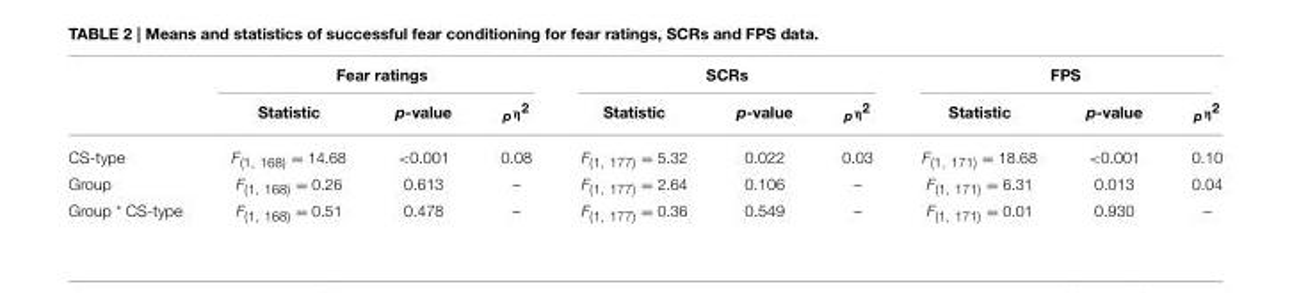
<table><thead><tr><td rowspan="2"></td><td colspan="3">Fear ratings</td><td colspan="3">SCRs</td><td colspan="3">FPS</td></tr><tr><td>Statistic</td><td>p-value</td><td>pη2</td><td>Statistic</td><td>p-value</td><td>pη2</td><td>Statistic</td><td>p-value</td><td>pη2</td></tr></thead><tbody><tr><td>CS-type</td><td>F<sub>(1, 168)</sub> = 14.68</td><td>&lt;0.001</td><td>0.08</td><td>F<sub>(1, 177)</sub> = 5.32</td><td>0.022</td><td>0.03</td><td>F<sub>(1, 171)</sub> = 18.68</td><td>&lt;0.001</td><td>0.10</td></tr><tr><td>Group</td><td>F<sub>(1, 168)</sub> = 0.26</td><td>0.613</td><td>–</td><td>F<sub>(1, 177)</sub> = 2.64</td><td>0.106</td><td>–</td><td>F<sub>(1, 171)</sub> = 6.31</td><td>0.013</td><td>0.04</td></tr><tr><td>Group * CS-type</td><td>F<sub>(1, 168)</sub> = 0.51</td><td>0.478</td><td>–</td><td>F<sub>(1, 177)</sub> = 0.36</td><td>0.549</td><td>–</td><td>F<sub>(1, 171)</sub> = 0.01</td><td>0.930</td><td>–</td></tr></tbody></table>